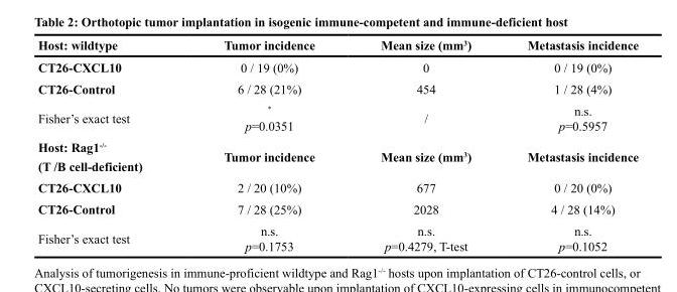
<table><thead><tr><td>Host: wildtype</td><td>Tumor incidence</td><td>Mean size (mm<sup>3</sup>)</td><td>Metastasis incidence</td></tr></thead><tbody><tr><td>CT26-CXCL10</td><td>0 / 19 (0%)</td><td>0</td><td>0 / 19 (0%)</td></tr><tr><td>CT26-Control</td><td>6 / 28 (21%)</td><td>454</td><td>1 / 28 (4%)</td></tr><tr><td>Fisher’s exact test</td><td>* p=0.0351</td><td>/</td><td>n.s. p=0.5957</td></tr><tr><td>Host: Rag1<sup>-/-</sup> (T /B cell-deficient)</td><td>Tumor incidence</td><td>Mean size (mm<sup>3</sup>)</td><td>Metastasis incidence</td></tr><tr><td>CT26-CXCL10</td><td>2 / 20 (10%)</td><td>677</td><td>0 / 20 (0%)</td></tr><tr><td>CT26-Control</td><td>7 / 28 (25%)</td><td>2028</td><td>4 / 28 (14%)</td></tr><tr><td>Fisher’s exact test</td><td>n.s. p=0.1753</td><td>n.s. p=0.4279, T-test</td><td>n.s. p=0.1052</td></tr></tbody></table>